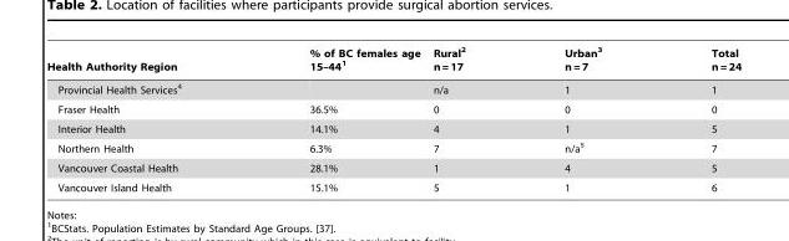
<table><thead><tr><td>Health Authority Region</td><td>% of BC females age 15–44<sup>1</sup></td><td>Rural<sup>2</sup> n = 17</td><td>Urban<sup>3</sup> n = 7</td><td>Total n = 24</td></tr></thead><tbody><tr><td>Provincial Health Services<sup>4</sup></td><td></td><td>n/a</td><td>1</td><td>1</td></tr><tr><td>Fraser Health</td><td>36.5%</td><td>0</td><td>0</td><td>0</td></tr><tr><td>Interior Health</td><td>14.1%</td><td>4</td><td>1</td><td>5</td></tr><tr><td>Northern Health</td><td>6.3%</td><td>7</td><td>n/a<sup>5</sup></td><td>7</td></tr><tr><td>Vancouver Coastal Health</td><td>28.1%</td><td>1</td><td>4</td><td>5</td></tr><tr><td>Vancouver Island Health</td><td>15.1%</td><td>5</td><td>1</td><td>6</td></tr></tbody></table>